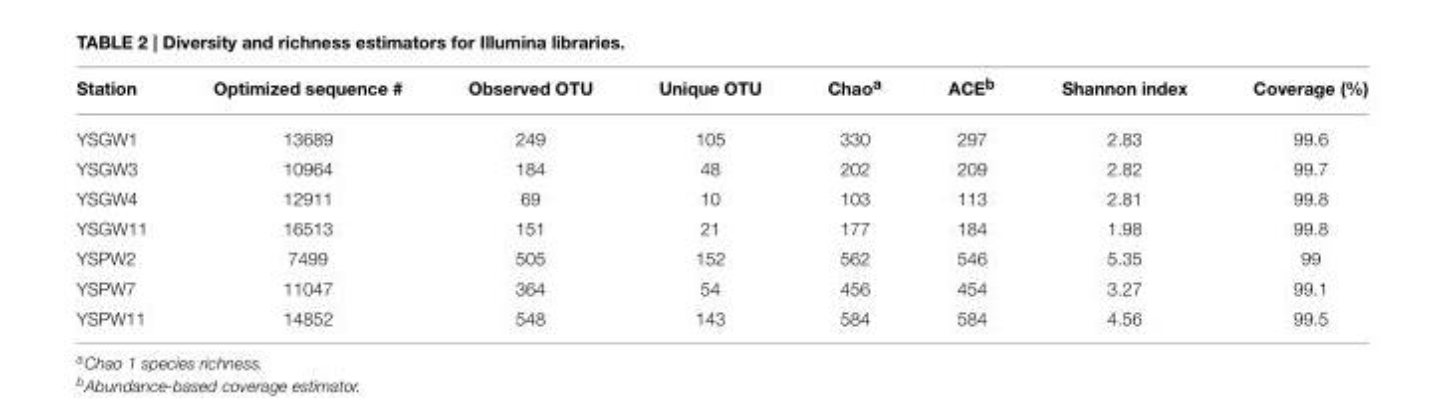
<table><thead><tr><td>Station</td><td>Optimized sequence #</td><td>Observed OTU</td><td>Unique OTU</td><td>Chao<sup>a</sup></td><td>ACE<sup>b</sup></td><td>Shannon index</td><td>Coverage (%)</td></tr></thead><tbody><tr><td>YSGW1</td><td>13689</td><td>249</td><td>105</td><td>330</td><td>297</td><td>2.83</td><td>99.6</td></tr><tr><td>YSGW3</td><td>10964</td><td>184</td><td>48</td><td>202</td><td>209</td><td>2.82</td><td>99.7</td></tr><tr><td>YSGW4</td><td>12911</td><td>69</td><td>10</td><td>103</td><td>113</td><td>2.81</td><td>99.8</td></tr><tr><td>YSGW11</td><td>16513</td><td>151</td><td>21</td><td>177</td><td>184</td><td>1.98</td><td>99.8</td></tr><tr><td>YSPW2</td><td>7499</td><td>505</td><td>152</td><td>562</td><td>546</td><td>5.35</td><td>99</td></tr><tr><td>YSPW7</td><td>11047</td><td>364</td><td>54</td><td>456</td><td>454</td><td>3.27</td><td>99.1</td></tr><tr><td>YSPW11</td><td>14852</td><td>548</td><td>143</td><td>584</td><td>584</td><td>4.56</td><td>99.5</td></tr></tbody></table>